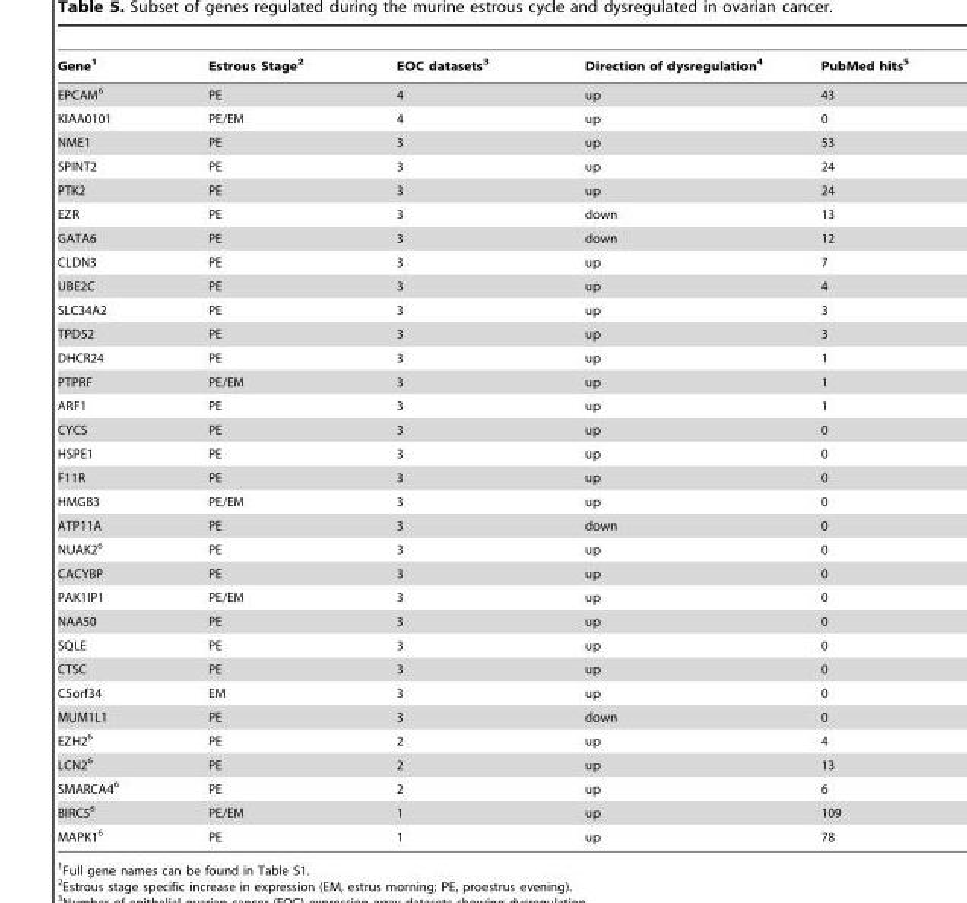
<table><thead><tr><td>Gene<sup>1</sup></td><td>Estrous Stage<sup>2</sup></td><td>EOC datasets<sup>3</sup></td><td>Direction of dysregulation<sup>4</sup></td><td>PubMed hits<sup>5</sup></td></tr></thead><tbody><tr><td>EPCAM<sup>6</sup></td><td>PE</td><td>4</td><td>up</td><td>43</td></tr><tr><td>KIAA0101</td><td>PE/EM</td><td>4</td><td>up</td><td>0</td></tr><tr><td>NME1</td><td>PE</td><td>3</td><td>up</td><td>53</td></tr><tr><td>SPINT2</td><td>PE</td><td>3</td><td>up</td><td>24</td></tr><tr><td>PTK2</td><td>PE</td><td>3</td><td>up</td><td>24</td></tr><tr><td>EZR</td><td>PE</td><td>3</td><td>down</td><td>13</td></tr><tr><td>GATA6</td><td>PE</td><td>3</td><td>down</td><td>12</td></tr><tr><td>CLDN3</td><td>PE</td><td>3</td><td>up</td><td>7</td></tr><tr><td>UBE2C</td><td>PE</td><td>3</td><td>up</td><td>4</td></tr><tr><td>SLC34A2</td><td>PE</td><td>3</td><td>up</td><td>3</td></tr><tr><td>TPD52</td><td>PE</td><td>3</td><td>up</td><td>3</td></tr><tr><td>DHCR24</td><td>PE</td><td>3</td><td>up</td><td>1</td></tr><tr><td>PTPRF</td><td>PE/EM</td><td>3</td><td>up</td><td>1</td></tr><tr><td>ARF1</td><td>PE</td><td>3</td><td>up</td><td>1</td></tr><tr><td>CYCS</td><td>PE</td><td>3</td><td>up</td><td>0</td></tr><tr><td>HSPE1</td><td>PE</td><td>3</td><td>up</td><td>0</td></tr><tr><td>F11R</td><td>PE</td><td>3</td><td>up</td><td>0</td></tr><tr><td>HMGB3</td><td>PE/EM</td><td>3</td><td>up</td><td>0</td></tr><tr><td>ATP11A</td><td>PE</td><td>3</td><td>down</td><td>0</td></tr><tr><td>NUAK2<sup>6</sup></td><td>PE</td><td>3</td><td>up</td><td>0</td></tr><tr><td>CACYBP</td><td>PE</td><td>3</td><td>up</td><td>0</td></tr><tr><td>PAK1IP1</td><td>PE/EM</td><td>3</td><td>up</td><td>0</td></tr><tr><td>NAA50</td><td>PE</td><td>3</td><td>up</td><td>0</td></tr><tr><td>SQLE</td><td>PE</td><td>3</td><td>up</td><td>0</td></tr><tr><td>CTSC</td><td>PE</td><td>3</td><td>up</td><td>0</td></tr><tr><td>C5orf34</td><td>EM</td><td>3</td><td>up</td><td>0</td></tr><tr><td>MUM1L1</td><td>PE</td><td>3</td><td>down</td><td>0</td></tr><tr><td>EZH2<sup>6</sup></td><td>PE</td><td>2</td><td>up</td><td>4</td></tr><tr><td>LCN2<sup>6</sup></td><td>PE</td><td>2</td><td>up</td><td>13</td></tr><tr><td>SMARCA4<sup>6</sup></td><td>PE</td><td>2</td><td>up</td><td>6</td></tr><tr><td>BIRC5<sup>6</sup></td><td>PE/EM</td><td>1</td><td>up</td><td>109</td></tr><tr><td>MAPK1<sup>6</sup></td><td>PE</td><td>1</td><td>up</td><td>78</td></tr></tbody></table>